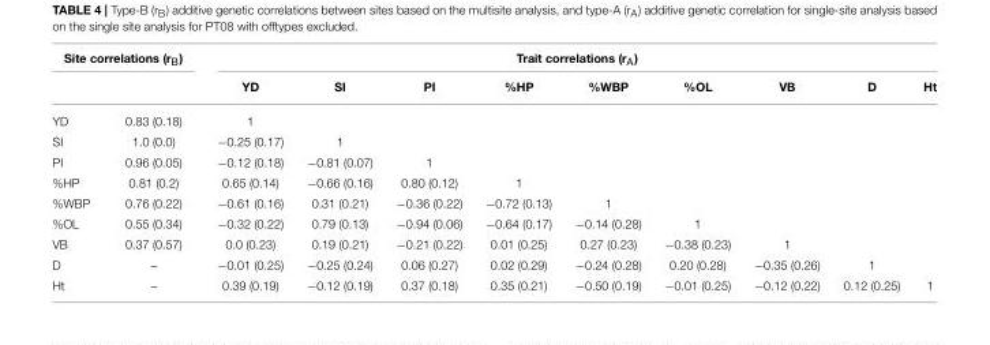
<table><thead><tr><td colspan="2">Site correlations (r<sub>B</sub>)</td><td colspan="9">Trait correlations (r<sub>A</sub>)</td></tr><tr><td></td><td></td><td>YD</td><td>SI</td><td>PI</td><td>%HP</td><td>%WBP</td><td>%OL</td><td>VB</td><td>D</td><td>Ht</td></tr></thead><tbody><tr><td>YD</td><td>0.83 (0.18)</td><td>1</td><td></td><td></td><td></td><td></td><td></td><td></td><td></td><td></td></tr><tr><td>SI</td><td>1.0 (0.0)</td><td>−0.25 (0.17)</td><td>1</td><td></td><td></td><td></td><td></td><td></td><td></td><td></td></tr><tr><td>PI</td><td>0.96 (0.05)</td><td>−0.12 (0.18)</td><td>−0.81 (0.07)</td><td>1</td><td></td><td></td><td></td><td></td><td></td><td></td></tr><tr><td>%HP</td><td>0.81 (0.2)</td><td>0.65 (0.14)</td><td>−0.66 (0.16)</td><td>0.80 (0.12)</td><td>1</td><td></td><td></td><td></td><td></td><td></td></tr><tr><td>%WBP</td><td>0.76 (0.22)</td><td>−0.61 (0.16)</td><td>0.31 (0.21)</td><td>−0.36 (0.22)</td><td>−0.72 (0.13)</td><td>1</td><td></td><td></td><td></td><td></td></tr><tr><td>%OL</td><td>0.55 (0.34)</td><td>−0.32 (0.22)</td><td>0.79 (0.13)</td><td>−0.94 (0.06)</td><td>−0.64 (0.17)</td><td>−0.14 (0.28)</td><td>1</td><td></td><td></td><td></td></tr><tr><td>VB</td><td>0.37 (0.57)</td><td>0.0 (0.23)</td><td>0.19 (0.21)</td><td>−0.21 (0.22)</td><td>0.01 (0.25)</td><td>0.27 (0.23)</td><td>−0.38 (0.23)</td><td>1</td><td></td><td></td></tr><tr><td>D</td><td>–</td><td>−0.01 (0.25)</td><td>−0.25 (0.24)</td><td>0.06 (0.27)</td><td>0.02 (0.29)</td><td>−0.24 (0.28)</td><td>0.20 (0.28)</td><td>−0.35 (0.26)</td><td>1</td><td></td></tr><tr><td>Ht</td><td>–</td><td>0.39 (0.19)</td><td>−0.12 (0.19)</td><td>0.37 (0.18)</td><td>0.35 (0.21)</td><td>−0.50 (0.19)</td><td>−0.01 (0.25)</td><td>−0.12 (0.22)</td><td>0.12 (0.25)</td><td>1</td></tr></tbody></table>